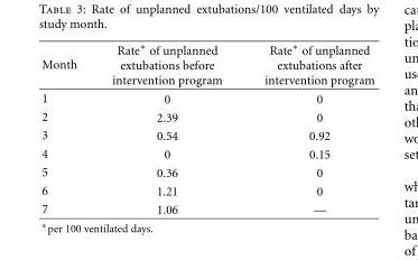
<table><thead><tr><td>Month</td><td>Rate∗ of unplanned extubations before intervention program</td><td>Rate∗ of unplanned extubations after intervention program</td></tr></thead><tbody><tr><td>1</td><td>0</td><td>0</td></tr><tr><td>2</td><td>2.39</td><td>0</td></tr><tr><td>3</td><td>0.54</td><td>0.92</td></tr><tr><td>4</td><td>0</td><td>0.15</td></tr><tr><td>5</td><td>0.36</td><td>0</td></tr><tr><td>6</td><td>1.21</td><td>0</td></tr><tr><td>7</td><td>1.06</td><td>—</td></tr></tbody></table>